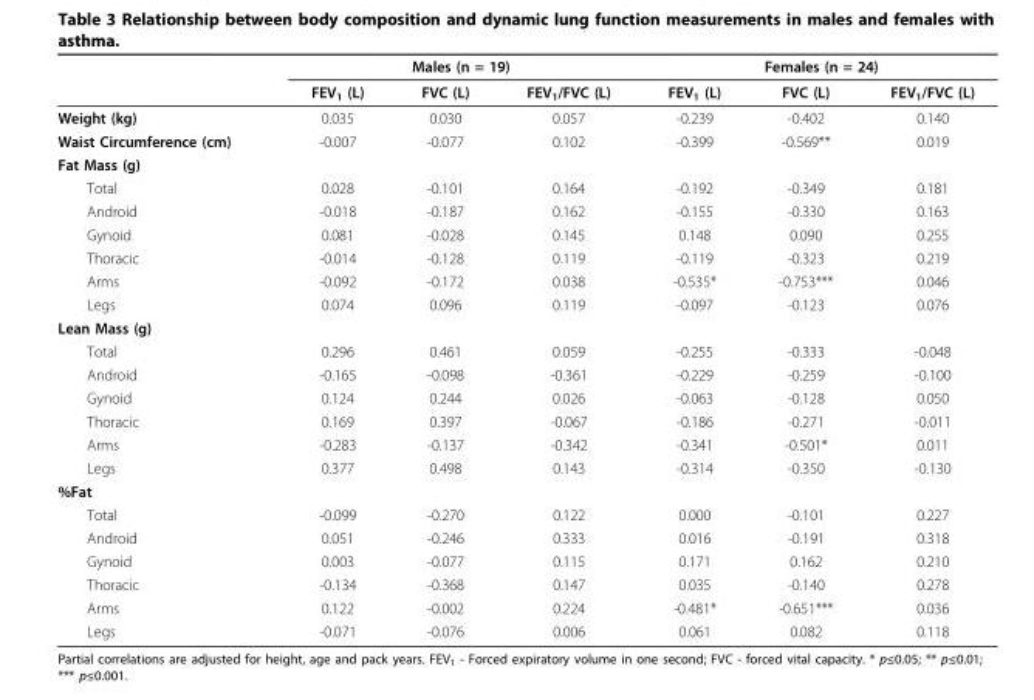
<table><thead><tr><td rowspan="2"></td><td colspan="3">Males (n = 19)</td><td colspan="3">Females (n = 24)</td></tr><tr><td>FEV<sub>1</sub> (L)</td><td>FVC (L)</td><td>FEV<sub>1</sub>/FVC (L)</td><td>FEV<sub>1</sub> (L)</td><td>FVC (L)</td><td>FEV<sub>1</sub>/FVC (L)</td></tr></thead><tbody><tr><td>Weight (kg)</td><td>0.035</td><td>0.030</td><td>0.057</td><td>-0.239</td><td>-0.402</td><td>0.140</td></tr><tr><td>Waist Circumference (cm)</td><td>-0.007</td><td>-0.077</td><td>0.102</td><td>-0.399</td><td>-0.569**</td><td>0.019</td></tr><tr><td colspan="7">Fat Mass (g)</td></tr><tr><td>Total</td><td>0.028</td><td>-0.101</td><td>0.164</td><td>-0.192</td><td>-0.349</td><td>0.181</td></tr><tr><td>Android</td><td>-0.018</td><td>-0.187</td><td>0.162</td><td>-0.155</td><td>-0.330</td><td>0.163</td></tr><tr><td>Gynoid</td><td>0.081</td><td>-0.028</td><td>0.145</td><td>0.148</td><td>0.090</td><td>0.255</td></tr><tr><td>Thoracic</td><td>-0.014</td><td>-0.128</td><td>0.119</td><td>-0.119</td><td>-0.323</td><td>0.219</td></tr><tr><td>Arms</td><td>-0.092</td><td>-0.172</td><td>0.038</td><td>-0.535*</td><td>-0.753***</td><td>0.046</td></tr><tr><td>Legs</td><td>0.074</td><td>0.096</td><td>0.119</td><td>-0.097</td><td>-0.123</td><td>0.076</td></tr><tr><td colspan="7">Lean Mass (g)</td></tr><tr><td>Total</td><td>0.296</td><td>0.461</td><td>0.059</td><td>-0.255</td><td>-0.333</td><td>-0.048</td></tr><tr><td>Android</td><td>-0.165</td><td>-0.098</td><td>-0.361</td><td>-0.229</td><td>-0.259</td><td>-0.100</td></tr><tr><td>Gynoid</td><td>0.124</td><td>0.244</td><td>0.026</td><td>-0.063</td><td>-0.128</td><td>0.050</td></tr><tr><td>Thoracic</td><td>0.169</td><td>0.397</td><td>-0.067</td><td>-0.186</td><td>-0.271</td><td>-0.011</td></tr><tr><td>Arms</td><td>-0.283</td><td>-0.137</td><td>-0.342</td><td>-0.341</td><td>-0.501*</td><td>0.011</td></tr><tr><td>Legs</td><td>0.377</td><td>0.498</td><td>0.143</td><td>-0.314</td><td>-0.350</td><td>-0.130</td></tr><tr><td colspan="7">%Fat</td></tr><tr><td>Total</td><td>-0.099</td><td>-0.270</td><td>0.122</td><td>0.000</td><td>-0.101</td><td>0.227</td></tr><tr><td>Android</td><td>0.051</td><td>-0.246</td><td>0.333</td><td>0.016</td><td>-0.191</td><td>0.318</td></tr><tr><td>Gynoid</td><td>0.003</td><td>-0.077</td><td>0.115</td><td>0.171</td><td>0.162</td><td>0.210</td></tr><tr><td>Thoracic</td><td>-0.134</td><td>-0.368</td><td>0.147</td><td>0.035</td><td>-0.140</td><td>0.278</td></tr><tr><td>Arms</td><td>0.122</td><td>-0.002</td><td>0.224</td><td>-0.481*</td><td>-0.651***</td><td>0.036</td></tr><tr><td>Legs</td><td>-0.071</td><td>-0.076</td><td>0.006</td><td>0.061</td><td>0.082</td><td>0.118</td></tr></tbody></table>